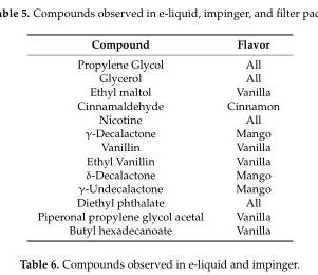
<table><thead><tr><td>Compound</td><td>Flavor</td></tr></thead><tbody><tr><td>Propylene Glycol</td><td>All</td></tr><tr><td>Glycerol</td><td>All</td></tr><tr><td>Ethyl maltol</td><td>Vanilla</td></tr><tr><td>Cinnamaldehyde</td><td>Cinnamon</td></tr><tr><td>Nicotine</td><td>All</td></tr><tr><td>γ-Decalactone</td><td>Mango</td></tr><tr><td>Vanillin</td><td>Vanilla</td></tr><tr><td>Ethyl Vanillin</td><td>Vanilla</td></tr><tr><td>δ-Decalactone</td><td>Mango</td></tr><tr><td>γ-Undecalactone</td><td>Mango</td></tr><tr><td>Diethyl phthalate</td><td>All</td></tr><tr><td>Piperonal propylene glycol acetal</td><td>Vanilla</td></tr><tr><td>Butyl hexadecanoate</td><td>Vanilla</td></tr></tbody></table>